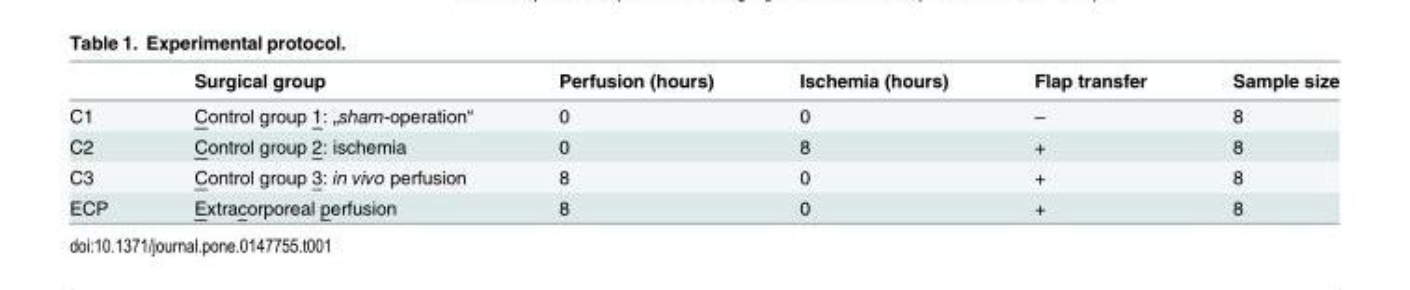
<table><thead><tr><td></td><td>Surgical group</td><td>Perfusion (hours)</td><td>Ischemia (hours)</td><td>Flap transfer</td><td>Sample size</td></tr></thead><tbody><tr><td>C1</td><td>Control group 1: „sham-operation“</td><td>0</td><td>0</td><td>–</td><td>8</td></tr><tr><td>C2</td><td>Control group 2: ischemia</td><td>0</td><td>8</td><td>+</td><td>8</td></tr><tr><td>C3</td><td>Control group 3: in vivo perfusion</td><td>8</td><td>0</td><td>+</td><td>8</td></tr><tr><td>ECP</td><td>Extracorporeal perfusion</td><td>8</td><td>0</td><td>+</td><td>8</td></tr></tbody></table>